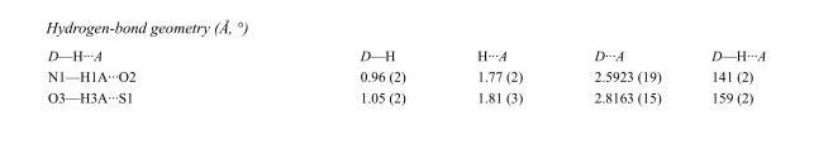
<table><tbody><tr><td>D—H···A</td><td>D—H</td><td>H···A</td><td>D···A</td><td>D—H···A</td></tr><tr><td>N1—H1A···O2</td><td>0.96 (2)</td><td>1.77 (2)</td><td>2.5923 (19)</td><td>141 (2)</td></tr><tr><td>O3—H3A···S1</td><td>1.05 (2)</td><td>1.81 (3)</td><td>2.8163 (15)</td><td>159 (2)</td></tr></tbody></table>